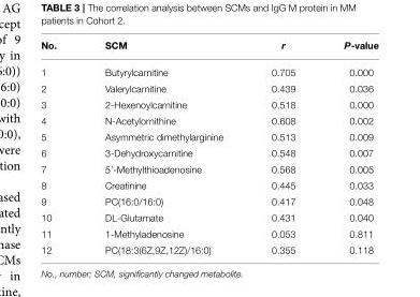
<table><thead><tr><td>No.</td><td>SCM</td><td>r</td><td>P-value</td></tr></thead><tbody><tr><td>1</td><td>Butyrylcarnitine</td><td>0.705</td><td>0.000</td></tr><tr><td>2</td><td>Valerylcarnitine</td><td>0.439</td><td>0.036</td></tr><tr><td>3</td><td>2-Hexenoylcarnitine</td><td>0.518</td><td>0.000</td></tr><tr><td>4</td><td>N-Acetylornithine</td><td>0.608</td><td>0.002</td></tr><tr><td>5</td><td>Asymmetric dimethylarginine</td><td>0.513</td><td>0.009</td></tr><tr><td>6</td><td>3-Dehydroxycarnitine</td><td>0.548</td><td>0.007</td></tr><tr><td>7</td><td>5’-Methylthioadenosine</td><td>0.568</td><td>0.005</td></tr><tr><td>8</td><td>Creatinine</td><td>0.445</td><td>0.033</td></tr><tr><td>9</td><td>PC(16:0/16:0)</td><td>0.417</td><td>0.048</td></tr><tr><td>10</td><td>DL-Glutamate</td><td>0.431</td><td>0.040</td></tr><tr><td>11</td><td>1-Methyladenosine</td><td>0.053</td><td>0.811</td></tr><tr><td>12</td><td>PC(18:3(6Z,9Z,12Z)/16:0)</td><td>0.355</td><td>0.118</td></tr></tbody></table>